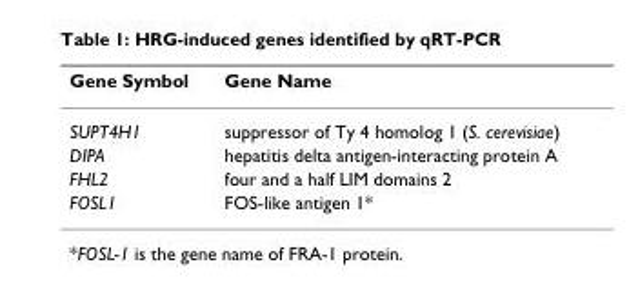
<table><thead><tr><td>Gene Symbol</td><td>Gene Name</td></tr></thead><tbody><tr><td>SUPT4H1</td><td>suppressor of Ty 4 homolog 1 (S. cerevisiae)</td></tr><tr><td>DIPA</td><td>hepatitis delta antigen-interacting protein A</td></tr><tr><td>FHL2</td><td>four and a half LIM domains 2</td></tr><tr><td>FOSL1</td><td>FOS-like antigen 1*</td></tr></tbody></table>